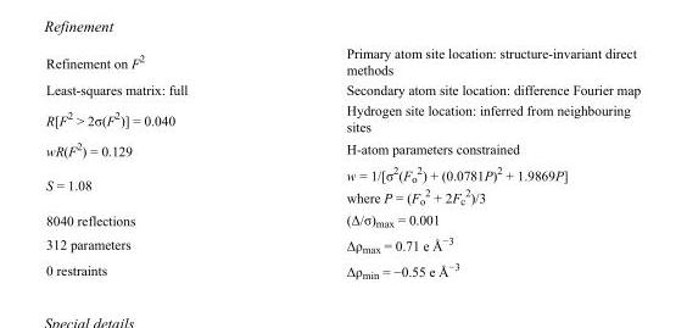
<table><tbody><tr><td>Refinement on F<sup>2</sup></td><td>Primary atom site location: structure-invariant direct methods</td></tr><tr><td>Least-squares matrix: full</td><td>Secondary atom site location: difference Fourier map</td></tr><tr><td>R[F<sup>2</sup> &gt; 2σ(F<sup>2</sup>)] = 0.040</td><td>Hydrogen site location: inferred from neighbouring sites</td></tr><tr><td>wR(F<sup>2</sup>) = 0.129</td><td>H-atom parameters constrained</td></tr><tr><td>S = 1.08</td><td>w = 1/[σ<sup>2</sup>(F<sub>o</sub> <sup>2</sup>) + (0.0781P)<sup>2</sup> + 1.9869P] where P = (F<sub>o</sub> <sup>2</sup> + 2F<sub>c</sub> <sup>2</sup>)/3</td></tr><tr><td>8040 reflections</td><td>(Δ/σ)<sub>max</sub> = 0.001</td></tr><tr><td>312 parameters</td><td>Δρ<sub>max</sub> = 0.71 e Å<sup>−3</sup></td></tr><tr><td>0 restraints</td><td>Δρ<sub>min</sub> = −0.55 e Å<sup>−3</sup></td></tr></tbody></table>